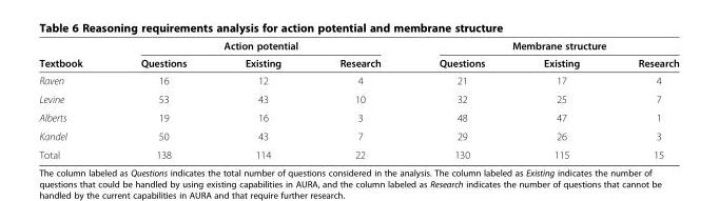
<table><thead><tr><td rowspan="2">Textbook</td><td colspan="3">Action potential</td><td colspan="3">Membrane structure</td></tr><tr><td>Questions</td><td>Existing</td><td>Research</td><td>Questions</td><td>Existing</td><td>Research</td></tr></thead><tbody><tr><td>Raven</td><td>16</td><td>12</td><td>4</td><td>21</td><td>17</td><td>4</td></tr><tr><td>Levine</td><td>53</td><td>43</td><td>10</td><td>32</td><td>25</td><td>7</td></tr><tr><td>Alberts</td><td>19</td><td>16</td><td>3</td><td>48</td><td>47</td><td>1</td></tr><tr><td>Kandel</td><td>50</td><td>43</td><td>7</td><td>29</td><td>26</td><td>3</td></tr><tr><td>Total</td><td>138</td><td>114</td><td>22</td><td>130</td><td>115</td><td>15</td></tr></tbody></table>